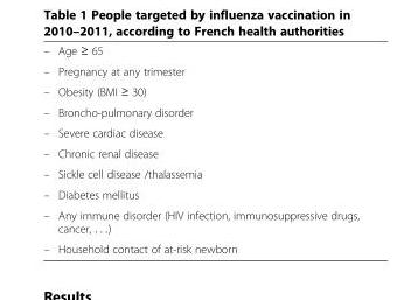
<table><tbody><tr><td>–</td><td>Age ≥ 65</td></tr><tr><td>–</td><td>Pregnancy at any trimester</td></tr><tr><td>–</td><td>Obesity (BMI ≥ 30)</td></tr><tr><td>–</td><td>Broncho-pulmonary disorder</td></tr><tr><td>–</td><td>Severe cardiac disease</td></tr><tr><td>–</td><td>Chronic renal disease</td></tr><tr><td>–</td><td>Sickle cell disease /thalassemia</td></tr><tr><td>–</td><td>Diabetes mellitus</td></tr><tr><td>–</td><td>Any immune disorder (HIV infection, immunosuppressive drugs, cancer, . . .)</td></tr><tr><td>–</td><td>Household contact of at-risk newborn</td></tr></tbody></table>